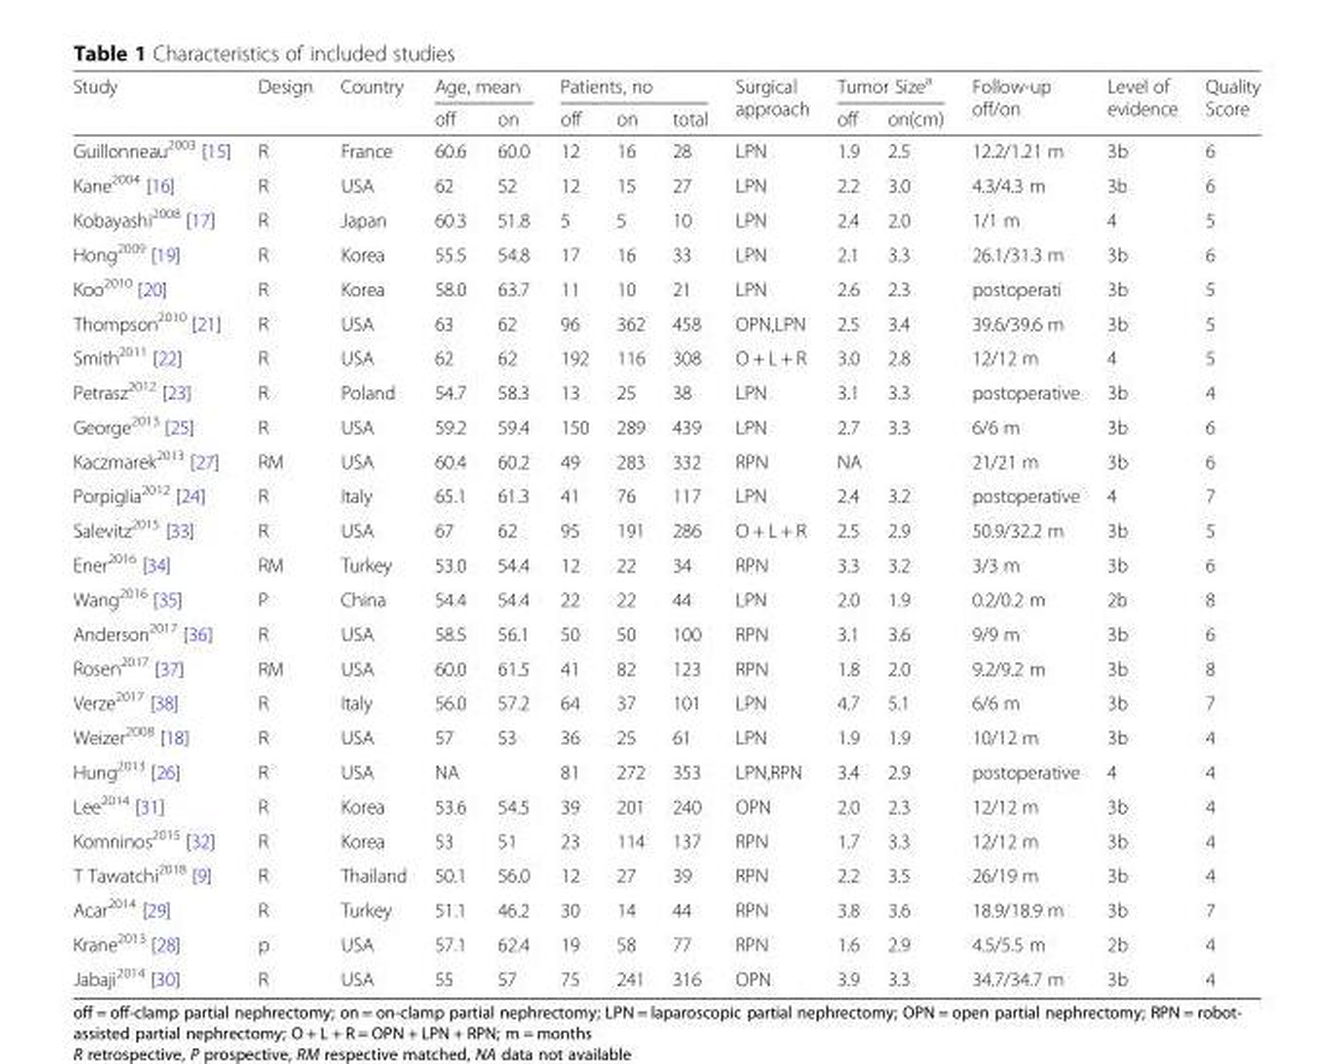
<table><thead><tr><td rowspan="2">Study</td><td rowspan="2">Design</td><td rowspan="2">Country</td><td colspan="2">Age, mean</td><td colspan="3">Patients, no</td><td rowspan="2">Surgical approach</td><td colspan="2">Tumor Size<sup>a</sup></td><td rowspan="2">Follow-up off/on</td><td rowspan="2">Level of evidence</td><td rowspan="2">Quality Score</td></tr><tr><td>off</td><td>on</td><td>off</td><td>on</td><td>total</td><td>off</td><td>on(cm)</td></tr></thead><tbody><tr><td>Guillonneau<sup>2003</sup> [15]</td><td>R</td><td>France</td><td>60.6</td><td>60.0</td><td>12</td><td>16</td><td>28</td><td>LPN</td><td>1.9</td><td>2.5</td><td>12.2/1.21 m</td><td>3b</td><td>6</td></tr><tr><td>Kane<sup>2004</sup> [16]</td><td>R</td><td>USA</td><td>62</td><td>52</td><td>12</td><td>15</td><td>27</td><td>LPN</td><td>2.2</td><td>3.0</td><td>4.3/4.3 m</td><td>3b</td><td>6</td></tr><tr><td>Kobayashi<sup>2008</sup> [17]</td><td>R</td><td>Japan</td><td>60.3</td><td>51.8</td><td>5</td><td>5</td><td>10</td><td>LPN</td><td>2.4</td><td>2.0</td><td>1/1 m</td><td>4</td><td>5</td></tr><tr><td>Hong<sup>2009</sup> [19]</td><td>R</td><td>Korea</td><td>55.5</td><td>54.8</td><td>17</td><td>16</td><td>33</td><td>LPN</td><td>2.1</td><td>3.3</td><td>26.1/31.3 m</td><td>3b</td><td>6</td></tr><tr><td>Koo<sup>2010</sup> [20]</td><td>R</td><td>Korea</td><td>58.0</td><td>63.7</td><td>11</td><td>10</td><td>21</td><td>LPN</td><td>2.6</td><td>2.3</td><td>postoperati</td><td>3b</td><td>5</td></tr><tr><td>Thompson<sup>2010</sup> [21]</td><td>R</td><td>USA</td><td>63</td><td>62</td><td>96</td><td>362</td><td>458</td><td>OPN,LPN</td><td>2.5</td><td>3.4</td><td>39.6/39.6 m</td><td>3b</td><td>5</td></tr><tr><td>Smith<sup>2011</sup> [22]</td><td>R</td><td>USA</td><td>62</td><td>62</td><td>192</td><td>116</td><td>308</td><td>O + L + R</td><td>3.0</td><td>2.8</td><td>12/12 m</td><td>4</td><td>5</td></tr><tr><td>Petrasz<sup>2012</sup> [23]</td><td>R</td><td>Poland</td><td>54.7</td><td>58.3</td><td>13</td><td>25</td><td>38</td><td>LPN</td><td>3.1</td><td>3.3</td><td>postoperative</td><td>3b</td><td>4</td></tr><tr><td>George<sup>2013</sup> [25]</td><td>R</td><td>USA</td><td>59.2</td><td>59.4</td><td>150</td><td>289</td><td>439</td><td>LPN</td><td>2.7</td><td>3.3</td><td>6/6 m</td><td>3b</td><td>6</td></tr><tr><td>Kaczmarek<sup>2013</sup> [27]</td><td>RM</td><td>USA</td><td>60.4</td><td>60.2</td><td>49</td><td>283</td><td>332</td><td>RPN</td><td colspan="2">NA</td><td>21/21 m</td><td>3b</td><td>6</td></tr><tr><td>Porpiglia<sup>2012</sup> [24]</td><td>R</td><td>Italy</td><td>65.1</td><td>61.3</td><td>41</td><td>76</td><td>117</td><td>LPN</td><td>2.4</td><td>3.2</td><td>postoperative</td><td>4</td><td>7</td></tr><tr><td>Salevitz<sup>2015</sup> [33]</td><td>R</td><td>USA</td><td>67</td><td>62</td><td>95</td><td>191</td><td>286</td><td>O + L + R</td><td>2.5</td><td>2.9</td><td>50.9/32.2 m</td><td>3b</td><td>5</td></tr><tr><td>Ener<sup>2016</sup> [34]</td><td>RM</td><td>Turkey</td><td>53.0</td><td>54.4</td><td>12</td><td>22</td><td>34</td><td>RPN</td><td>3.3</td><td>3.2</td><td>3/3 m</td><td>3b</td><td>6</td></tr><tr><td>Wang<sup>2016</sup> [35]</td><td>P</td><td>China</td><td>54.4</td><td>54.4</td><td>22</td><td>22</td><td>44</td><td>LPN</td><td>2.0</td><td>1.9</td><td>0.2/0.2 m</td><td>2b</td><td>8</td></tr><tr><td>Anderson<sup>2017</sup> [36]</td><td>R</td><td>USA</td><td>58.5</td><td>56.1</td><td>50</td><td>50</td><td>100</td><td>RPN</td><td>3.1</td><td>3.6</td><td>9/9 m</td><td>3b</td><td>6</td></tr><tr><td>Rosen<sup>2017</sup> [37]</td><td>RM</td><td>USA</td><td>60.0</td><td>61.5</td><td>41</td><td>82</td><td>123</td><td>RPN</td><td>1.8</td><td>2.0</td><td>9.2/9.2 m</td><td>3b</td><td>8</td></tr><tr><td>Verze<sup>2017</sup> [38]</td><td>R</td><td>Italy</td><td>56.0</td><td>57.2</td><td>64</td><td>37</td><td>101</td><td>LPN</td><td>4.7</td><td>5.1</td><td>6/6 m</td><td>3b</td><td>7</td></tr><tr><td>Weizer<sup>2008</sup> [18]</td><td>R</td><td>USA</td><td>57</td><td>53</td><td>36</td><td>25</td><td>61</td><td>LPN</td><td>1.9</td><td>1.9</td><td>10/12 m</td><td>3b</td><td>4</td></tr><tr><td>Hung<sup>2013</sup> [26]</td><td>R</td><td>USA</td><td colspan="2">NA</td><td>81</td><td>272</td><td>353</td><td>LPN,RPN</td><td>3.4</td><td>2.9</td><td>postoperative</td><td>4</td><td>4</td></tr><tr><td>Lee<sup>2014</sup> [31]</td><td>R</td><td>Korea</td><td>53.6</td><td>54.5</td><td>39</td><td>201</td><td>240</td><td>OPN</td><td>2.0</td><td>2.3</td><td>12/12 m</td><td>3b</td><td>4</td></tr><tr><td>Komninos<sup>2015</sup> [32]</td><td>R</td><td>Korea</td><td>53</td><td>51</td><td>23</td><td>114</td><td>137</td><td>RPN</td><td>1.7</td><td>3.3</td><td>12/12 m</td><td>3b</td><td>4</td></tr><tr><td>T Tawatchi<sup>2018</sup> [9]</td><td>R</td><td>Thailand</td><td>50.1</td><td>56.0</td><td>12</td><td>27</td><td>39</td><td>RPN</td><td>2.2</td><td>3.5</td><td>26/19 m</td><td>3b</td><td>4</td></tr><tr><td>Acar<sup>2014</sup> [29]</td><td>R</td><td>Turkey</td><td>51.1</td><td>46.2</td><td>30</td><td>14</td><td>44</td><td>RPN</td><td>3.8</td><td>3.6</td><td>18.9/18.9 m</td><td>3b</td><td>7</td></tr><tr><td>Krane<sup>2013</sup> [28]</td><td>p</td><td>USA</td><td>57.1</td><td>62.4</td><td>19</td><td>58</td><td>77</td><td>RPN</td><td>1.6</td><td>2.9</td><td>4.5/5.5 m</td><td>2b</td><td>4</td></tr><tr><td>Jabaji<sup>2014</sup> [30]</td><td>R</td><td>USA</td><td>55</td><td>57</td><td>75</td><td>241</td><td>316</td><td>OPN</td><td>3.9</td><td>3.3</td><td>34.7/34.7 m</td><td>3b</td><td>4</td></tr></tbody></table>